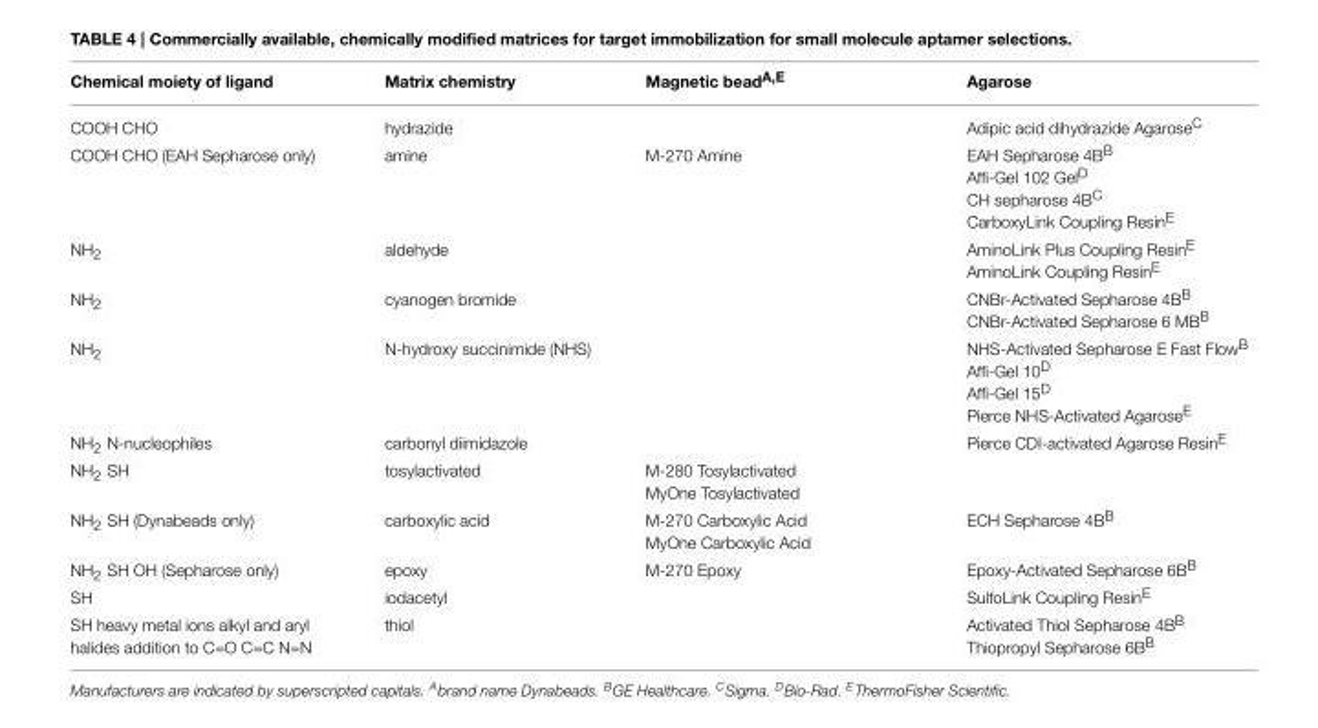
<table><thead><tr><td>Chemical moiety of ligand</td><td>Matrix chemistry</td><td>Magnetic bead<sup>A,E</sup></td><td>Agarose</td></tr></thead><tbody><tr><td>COOH CHO</td><td>hydrazide</td><td></td><td>Adipic acid dihydrazide Agarose<sup>C</sup></td></tr><tr><td>COOH CHO (EAH Sepharose only)</td><td>amine</td><td>M-270 Amine</td><td>EAH Sepharose 4B<sup>B</sup> Affi-Gel 102 Gel<sup>D</sup> CH sepharose 4B<sup>C</sup> CarboxyLink Coupling Resin<sup>E</sup></td></tr><tr><td>NH<sub>2</sub></td><td>aldehyde</td><td></td><td>AminoLink Plus Coupling Resin<sup>E</sup> AminoLink Coupling Resin<sup>E</sup></td></tr><tr><td>NH<sub>2</sub></td><td>cyanogen bromide</td><td></td><td>CNBr-Activated Sepharose 4B<sup>B</sup> CNBr-Activated Sepharose 6 MB<sup>B</sup></td></tr><tr><td>NH<sub>2</sub></td><td>N-hydroxy succinimide (NHS)</td><td></td><td>NHS-Activated Sepharose E Fast Flow<sup>B</sup> Affi-Gel 10<sup>D</sup> Affi-Gel 15<sup>D</sup> Pierce NHS-Activated Agarose<sup>E</sup></td></tr><tr><td>NH<sub>2</sub> N-nucleophiles</td><td>carbonyl diimidazole</td><td></td><td>Pierce CDI-activated Agarose Resin<sup>E</sup></td></tr><tr><td>NH<sub>2</sub> SH</td><td>tosylactivated</td><td>M-280 Tosylactivated MyOne Tosylactivated</td><td></td></tr><tr><td>NH<sub>2</sub> SH (Dynabeads only)</td><td>carboxylic acid</td><td>M-270 Carboxylic Acid MyOne Carboxylic Acid</td><td>ECH Sepharose 4B<sup>B</sup></td></tr><tr><td>NH<sub>2</sub> SH OH (Sepharose only)</td><td>epoxy</td><td>M-270 Epoxy</td><td>Epoxy-Activated Sepharose 6B<sup>B</sup></td></tr><tr><td>SH</td><td>iodacetyl</td><td></td><td>SulfoLink Coupling Resin<sup>E</sup></td></tr><tr><td>SH heavy metal ions alkyl and aryl halides addition to C=O C=C N=N</td><td>thiol</td><td></td><td>Activated Thiol Sepharose 4B<sup>B</sup> Thiopropyl Sepharose 6B<sup>B</sup></td></tr></tbody></table>